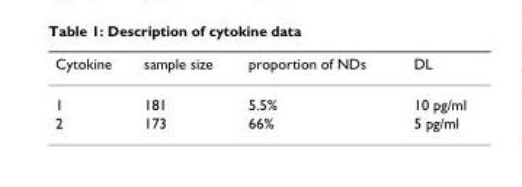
<table><thead><tr><td>Cytokine</td><td>sample size</td><td>proportion of NDs</td><td>DL</td></tr></thead><tbody><tr><td>1</td><td>181</td><td>5.5%</td><td>10 pg/ml</td></tr><tr><td>2</td><td>173</td><td>66%</td><td>5 pg/ml</td></tr></tbody></table>